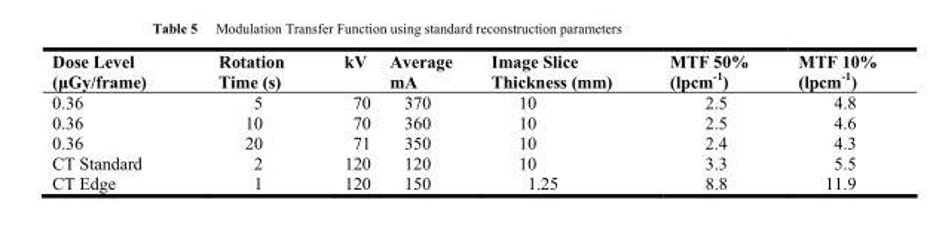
<table><thead><tr><td>Dose Level (µGy/frame)</td><td>Rotation Time (s)</td><td>kV</td><td>Average mA</td><td>Image Slice Thickness (mm)</td><td>MTF 50% (lpcm<sup>-1</sup>)</td><td>MTF 10% (lpcm<sup>-1</sup>)</td></tr></thead><tbody><tr><td>0.36</td><td>5</td><td>70</td><td>370</td><td>10</td><td>2.5</td><td>4.8</td></tr><tr><td>0.36</td><td>10</td><td>70</td><td>360</td><td>10</td><td>2.5</td><td>4.6</td></tr><tr><td>0.36</td><td>20</td><td>71</td><td>350</td><td>10</td><td>2.4</td><td>4.3</td></tr><tr><td>CT Standard</td><td>2</td><td>120</td><td>120</td><td>10</td><td>3.3</td><td>5.5</td></tr><tr><td>CT Edge</td><td>1</td><td>120</td><td>150</td><td>1.25</td><td>8.8</td><td>11.9</td></tr></tbody></table>